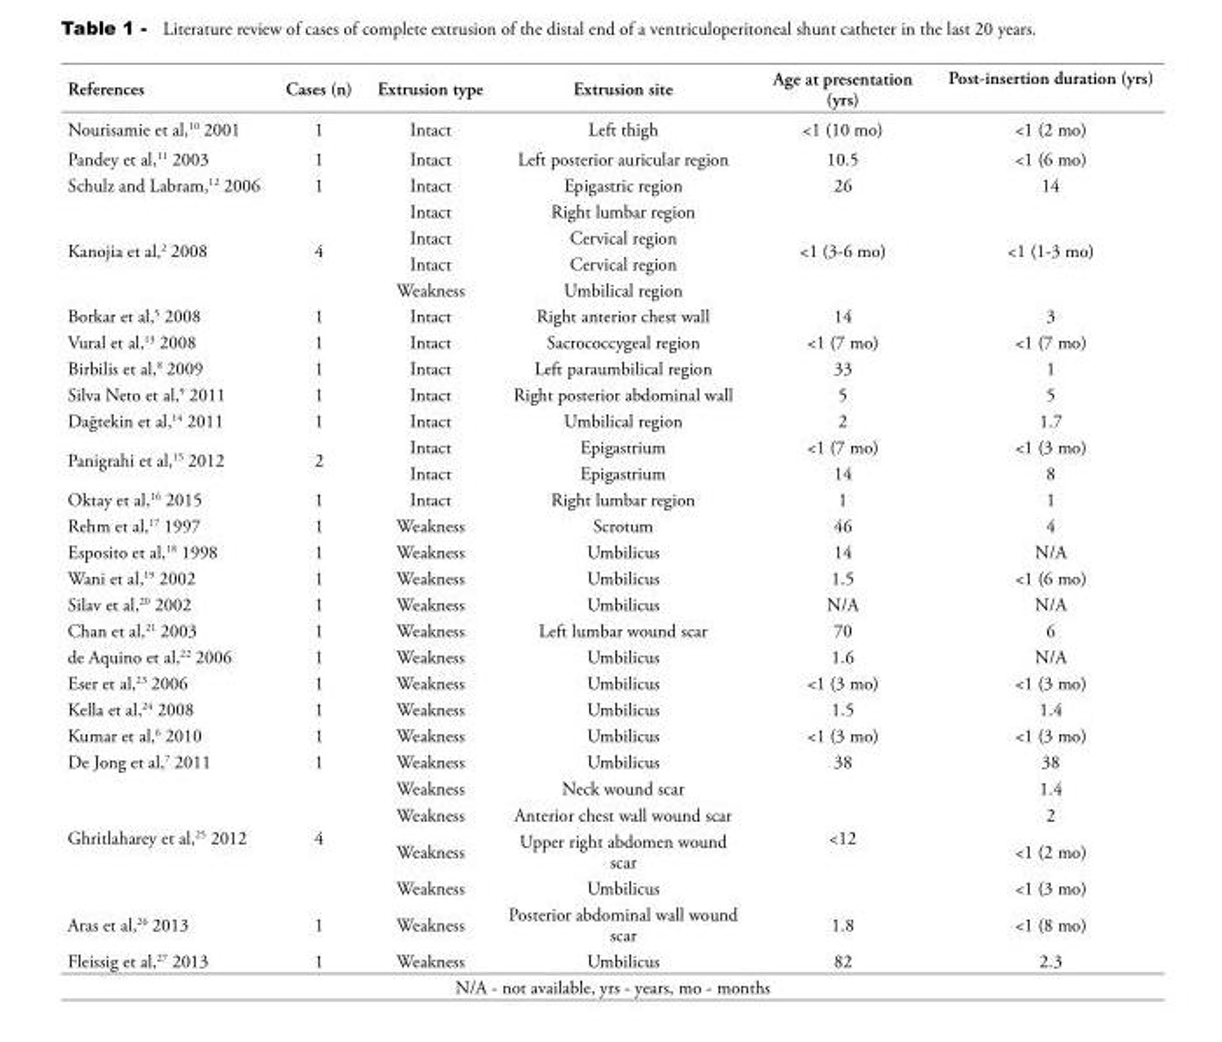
<table><thead><tr><td>References</td><td>Cases (n)</td><td>Extrusion type</td><td>Extrusion site</td><td>Age at presentation (yrs)</td><td>Post-insertion duration (yrs)</td></tr></thead><tbody><tr><td>Nourisamie et al,<sup>10</sup> 2001</td><td>1</td><td>Intact</td><td>Left thigh</td><td>&lt;1 (10 mo)</td><td>&lt;1 (2 mo)</td></tr><tr><td>Pandey et al,<sup>11</sup> 2003</td><td>1</td><td>Intact</td><td>Left posterior auricular region</td><td>10.5</td><td>&lt;1 (6 mo)</td></tr><tr><td>Schulz and Labram,<sup>12</sup> 2006</td><td>1</td><td>Intact</td><td>Epigastric region</td><td>26</td><td>14</td></tr><tr><td rowspan="4">Kanojia et al,<sup>2</sup> 2008</td><td rowspan="4">4</td><td>Intact</td><td>Right lumbar region</td><td rowspan="4">&lt;1 (3-6 mo)</td><td rowspan="4">&lt;1 (1-3 mo)</td></tr><tr><td>Intact</td><td>Cervical region</td></tr><tr><td>Intact</td><td>Cervical region</td></tr><tr><td>Weakness</td><td>Umbilical region</td></tr><tr><td>Borkar et al,<sup>5</sup> 2008</td><td>1</td><td>Intact</td><td>Right anterior chest wall</td><td>14</td><td>3</td></tr><tr><td>Vural et al,<sup>13</sup> 2008</td><td>1</td><td>Intact</td><td>Sacrococcygeal region</td><td>&lt;1 (7 mo)</td><td>&lt;1 (7 mo)</td></tr><tr><td>Birbilis et al,<sup>8</sup> 2009</td><td>1</td><td>Intact</td><td>Left paraumbilical region</td><td>33</td><td>1</td></tr><tr><td>Silva Neto et al,<sup>9</sup> 2011</td><td>1</td><td>Intact</td><td>Right posterior abdominal wall</td><td>5</td><td>5</td></tr><tr><td>Dağtekin et al,<sup>14</sup> 2011</td><td>1</td><td>Intact</td><td>Umbilical region</td><td>2</td><td>1.7</td></tr><tr><td rowspan="2">Panigrahi et al,<sup>15</sup> 2012</td><td rowspan="2">2</td><td>Intact</td><td>Epigastrium</td><td>&lt;1 (7 mo)</td><td>&lt;1 (3 mo)</td></tr><tr><td>Intact</td><td>Epigastrium</td><td>14</td><td>8</td></tr><tr><td>Oktay et al,<sup>16</sup> 2015</td><td>1</td><td>Intact</td><td>Right lumbar region</td><td>1</td><td>1</td></tr><tr><td>Rehm et al,<sup>17</sup> 1997</td><td>1</td><td>Weakness</td><td>Scrotum</td><td>46</td><td>4</td></tr><tr><td>Esposito et al,<sup>18</sup> 1998</td><td>1</td><td>Weakness</td><td>Umbilicus</td><td>14</td><td>N/A</td></tr><tr><td>Wani et al,<sup>19</sup> 2002</td><td>1</td><td>Weakness</td><td>Umbilicus</td><td>1.5</td><td>&lt;1 (6 mo)</td></tr><tr><td>Silav et al,<sup>20</sup> 2002</td><td>1</td><td>Weakness</td><td>Umbilicus</td><td>N/A</td><td>N/A</td></tr><tr><td>Chan et al,<sup>21</sup> 2003</td><td>1</td><td>Weakness</td><td>Left lumbar wound scar</td><td>70</td><td>6</td></tr><tr><td>de Aquino et al,<sup>22</sup> 2006</td><td>1</td><td>Weakness</td><td>Umbilicus</td><td>1.6</td><td>N/A</td></tr><tr><td>Eser et al,<sup>23</sup> 2006</td><td>1</td><td>Weakness</td><td>Umbilicus</td><td>&lt;1 (3 mo)</td><td>&lt;1 (3 mo)</td></tr><tr><td>Kella et al,<sup>24</sup> 2008</td><td>1</td><td>Weakness</td><td>Umbilicus</td><td>1.5</td><td>1.4</td></tr><tr><td>Kumar et al,<sup>6</sup> 2010</td><td>1</td><td>Weakness</td><td>Umbilicus</td><td>&lt;1 (3 mo)</td><td>&lt;1 (3 mo)</td></tr><tr><td>De Jong et al,<sup>7</sup> 2011</td><td>1</td><td>Weakness</td><td>Umbilicus</td><td>38</td><td>38</td></tr><tr><td rowspan="4">Ghritlaharey et al,<sup>25</sup> 2012</td><td rowspan="4">4</td><td>Weakness</td><td>Neck wound scar</td><td rowspan="4">&lt;12</td><td>1.4</td></tr><tr><td>Weakness</td><td>Anterior chest wall wound scar</td><td>2</td></tr><tr><td>Weakness</td><td>Upper right abdomen wound scar</td><td>&lt;1 (2 mo)</td></tr><tr><td>Weakness</td><td>Umbilicus</td><td>&lt;1 (3 mo)</td></tr><tr><td>Aras et al,<sup>26</sup> 2013</td><td>1</td><td>Weakness</td><td>Posterior abdominal wall wound scar</td><td>1.8</td><td>&lt;1 (8 mo)</td></tr><tr><td>Fleissig et al,<sup>27</sup> 2013</td><td>1</td><td>Weakness</td><td>Umbilicus</td><td>82</td><td>2.3</td></tr></tbody></table>